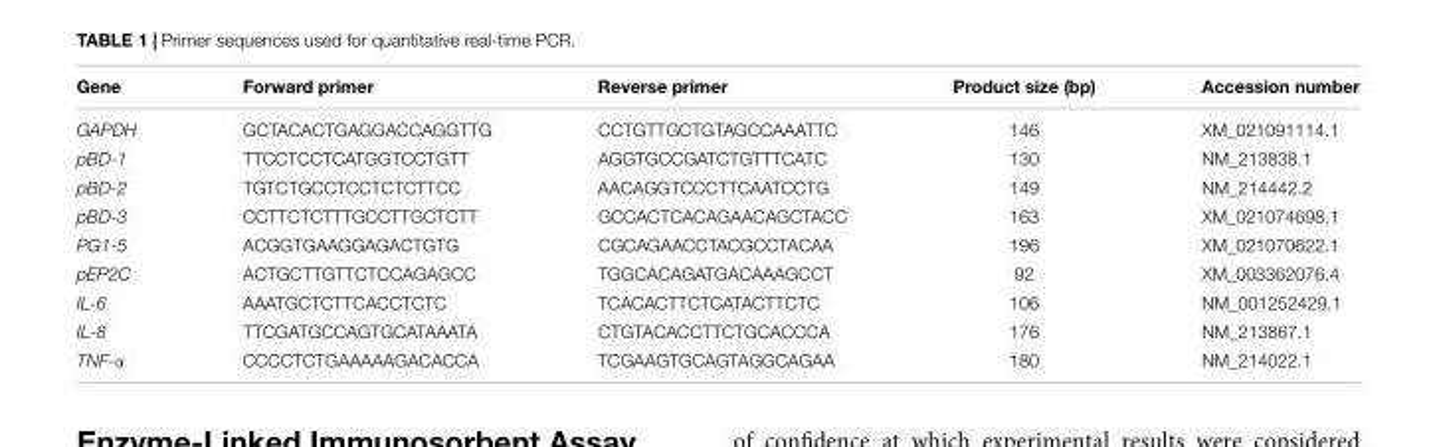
<table><thead><tr><td>Gene</td><td>Forward primer</td><td>Reverse primer</td><td>Product size (bp)</td><td>Accession number</td></tr></thead><tbody><tr><td>GAPDH</td><td>GCTACACTGAGGACCAGGTTG</td><td>CCTGTTGCTGTAGCCAAATTC</td><td>146</td><td>XM_021091114.1</td></tr><tr><td>pBD-1</td><td>TTCCTCCTCATGGTCCTGTT</td><td>AGGTGCCGATCTGTTTCATC</td><td>130</td><td>NM_213838.1</td></tr><tr><td>pBD-2</td><td>TGTCTGCCTCCTCTCTTCC</td><td>AACAGGTCCCTTCAATCCTG</td><td>149</td><td>NM_214442.2</td></tr><tr><td>pBD-3</td><td>CCTTCTCTTTGCCTTGCTCTT</td><td>GCCACTCACAGAACAGCTACC</td><td>163</td><td>XM_021074698.1</td></tr><tr><td>PG1-5</td><td>ACGGTGAAGGAGACTGTG</td><td>CGCAGAACCTACGCCTACAA</td><td>196</td><td>XM_021070622.1</td></tr><tr><td>pEP2C</td><td>ACTGCTTGTTCTCCAGAGCC</td><td>TGGCACAGATGACAAAGCCT</td><td>92</td><td>XM_003362076.4</td></tr><tr><td>IL-6</td><td>AAATGCTCTTCACCTCTC</td><td>TCACACTTCTCATACTTCTC</td><td>106</td><td>NM_001252429.1</td></tr><tr><td>IL-8</td><td>TTCGATGCCAGTGCATAAATA</td><td>CTGTACACCTTCTGCACCCA</td><td>176</td><td>NM_213867.1</td></tr><tr><td>TNF-α</td><td>CCCCTCTGAAAAAGACACCA</td><td>TCGAAGTGCAGTAGGCAGAA</td><td>180</td><td>NM_214022.1</td></tr></tbody></table>